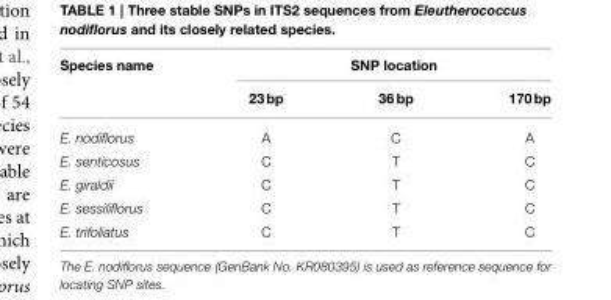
<table><thead><tr><td rowspan="2">Species name</td><td colspan="3">SNP location</td></tr><tr><td>23 bp</td><td>36 bp</td><td>170 bp</td></tr></thead><tbody><tr><td>E. nodiflorus</td><td>A</td><td>C</td><td>A</td></tr><tr><td>E. senticosus</td><td>C</td><td>T</td><td>C</td></tr><tr><td>E. giraldii</td><td>C</td><td>T</td><td>C</td></tr><tr><td>E. sessiliflorus</td><td>C</td><td>T</td><td>C</td></tr><tr><td>E. trifoliatus</td><td>C</td><td>T</td><td>C</td></tr></tbody></table>